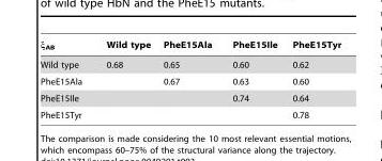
<table><thead><tr><td>ξ<sub>AB</sub></td><td>Wild type</td><td>PheE15Ala</td><td>PheE15Ile</td><td>PheE15Tyr</td></tr></thead><tbody><tr><td>Wild type</td><td>0.68</td><td>0.65</td><td>0.60</td><td>0.62</td></tr><tr><td>PheE15Ala</td><td></td><td>0.67</td><td>0.63</td><td>0.60</td></tr><tr><td>PheE15Ile</td><td></td><td></td><td>0.74</td><td>0.64</td></tr><tr><td>PheE15Tyr</td><td></td><td></td><td></td><td>0.78</td></tr></tbody></table>